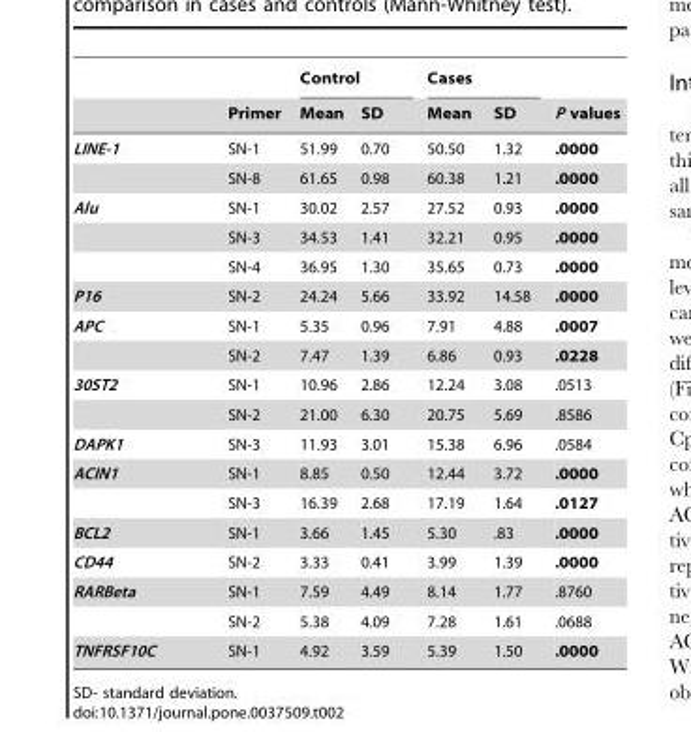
<table><thead><tr><td rowspan="2"></td><td rowspan="2">Primer</td><td colspan="2">Control</td><td colspan="2">Cases</td><td rowspan="2">P values</td></tr><tr><td>Mean</td><td>SD</td><td>Mean</td><td>SD</td></tr></thead><tbody><tr><td rowspan="2">LINE-1</td><td>SN-1</td><td>51.99</td><td>0.70</td><td>50.50</td><td>1.32</td><td>.0000</td></tr><tr><td>SN-8</td><td>61.65</td><td>0.98</td><td>60.38</td><td>1.21</td><td>.0000</td></tr><tr><td rowspan="3">Alu</td><td>SN-1</td><td>30.02</td><td>2.57</td><td>27.52</td><td>0.93</td><td>.0000</td></tr><tr><td>SN-3</td><td>34.53</td><td>1.41</td><td>32.21</td><td>0.95</td><td>.0000</td></tr><tr><td>SN-4</td><td>36.95</td><td>1.30</td><td>35.65</td><td>0.73</td><td>.0000</td></tr><tr><td>P16</td><td>SN-2</td><td>24.24</td><td>5.66</td><td>33.92</td><td>14.58</td><td>.0000</td></tr><tr><td rowspan="2">APC</td><td>SN-1</td><td>5.35</td><td>0.96</td><td>7.91</td><td>4.88</td><td>.0007</td></tr><tr><td>SN-2</td><td>7.47</td><td>1.39</td><td>6.86</td><td>0.93</td><td>.0228</td></tr><tr><td rowspan="2">30ST2</td><td>SN-1</td><td>10.96</td><td>2.86</td><td>12.24</td><td>3.08</td><td>.0513</td></tr><tr><td>SN-2</td><td>21.00</td><td>6.30</td><td>20.75</td><td>5.69</td><td>.8586</td></tr><tr><td>DAPK1</td><td>SN-3</td><td>11.93</td><td>3.01</td><td>15.38</td><td>6.96</td><td>.0584</td></tr><tr><td rowspan="2">ACIN1</td><td>SN-1</td><td>8.85</td><td>0.50</td><td>12.44</td><td>3.72</td><td>.0000</td></tr><tr><td>SN-3</td><td>16.39</td><td>2.68</td><td>17.19</td><td>1.64</td><td>.0127</td></tr><tr><td>BCL2</td><td>SN-1</td><td>3.66</td><td>1.45</td><td>5.30</td><td>.83</td><td>.0000</td></tr><tr><td>CD44</td><td>SN-2</td><td>3.33</td><td>0.41</td><td>3.99</td><td>1.39</td><td>.0000</td></tr><tr><td rowspan="2">RARBeta</td><td>SN-1</td><td>7.59</td><td>4.49</td><td>8.14</td><td>1.77</td><td>.8760</td></tr><tr><td>SN-2</td><td>5.38</td><td>4.09</td><td>7.28</td><td>1.61</td><td>.0688</td></tr><tr><td>TNFRSF10C</td><td>SN-1</td><td>4.92</td><td>3.59</td><td>5.39</td><td>1.50</td><td>.0000</td></tr></tbody></table>